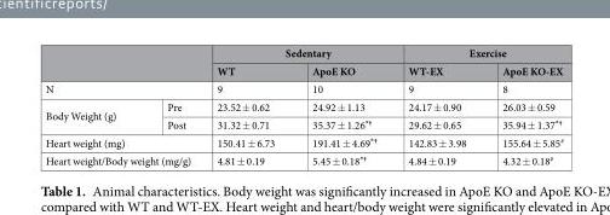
<table><thead><tr><td rowspan="2"></td><td rowspan="2"></td><td colspan="2">Sedentary</td><td colspan="2">Exercise</td></tr><tr><td>WT</td><td>ApoE KO</td><td>WT-EX</td><td>ApoE KO-EX</td></tr></thead><tbody><tr><td colspan="2">N</td><td>9</td><td>10</td><td>9</td><td>8</td></tr><tr><td rowspan="2">Body Weight (g)</td><td>Pre</td><td>23.52 ± 0.62</td><td>24.92 ± 1.13</td><td>24.17 ± 0.90</td><td>26.03 ± 0.59</td></tr><tr><td>Post</td><td>31.32 ± 0.71</td><td>35.37 ± 1.26<sup>*†</sup></td><td>29.62 ± 0.65</td><td>35.94 ± 1.37<sup>*†</sup></td></tr><tr><td colspan="2">Heart weight (mg)</td><td>150.41 ± 6.73</td><td>191.41 ± 4.69<sup>*†</sup></td><td>142.83 ± 3.98</td><td>155.64 ± 5.85<sup>#</sup></td></tr><tr><td colspan="2">Heart weight/Body weight (mg/g)</td><td>4.81 ± 0.19</td><td>5.45 ± 0.18<sup>*†</sup></td><td>4.84 ± 0.19</td><td>4.32 ± 0.18<sup>#</sup></td></tr></tbody></table>